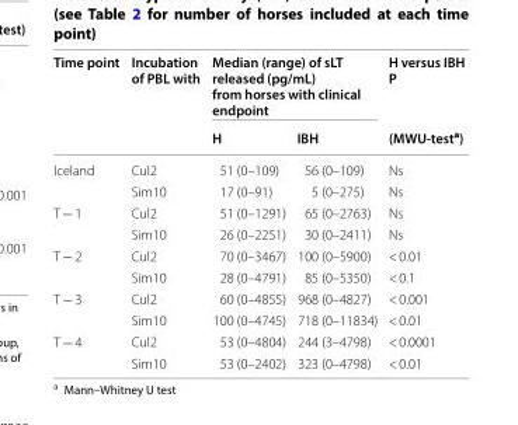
<table><thead><tr><td rowspan="2">Time point</td><td rowspan="2">Incubation of PBL with</td><td colspan="2">Median (range) of sLT released (pg/mL) from horses with clinical endpoint</td><td rowspan="2">H versus IBH P (MWU‑test<sup>a</sup>)</td></tr><tr><td>H</td><td>IBH</td></tr></thead><tbody><tr><td rowspan="2">Iceland</td><td>Cul2</td><td>51 (0–109)</td><td>56 (0–109)</td><td>Ns</td></tr><tr><td>Sim10</td><td>17 (0–91)</td><td>5 (0–275)</td><td>Ns</td></tr><tr><td rowspan="2">T − 1</td><td>Cul2</td><td>51 (0–1291)</td><td>65 (0–2763)</td><td>Ns</td></tr><tr><td>Sim10</td><td>26 (0–2251)</td><td>30 (0–2411)</td><td>Ns</td></tr><tr><td rowspan="2">T − 2</td><td>Cul2</td><td>70 (0–3467)</td><td>100 (0–5900)</td><td>&lt; 0.01</td></tr><tr><td>Sim10</td><td>28 (0–4791)</td><td>85 (0–5350)</td><td>&lt; 0.1</td></tr><tr><td rowspan="2">T − 3</td><td>Cul2</td><td>60 (0–4855)</td><td>968 (0–4827)</td><td>&lt; 0.001</td></tr><tr><td>Sim10</td><td>100 (0–4745)</td><td>718 (0–11834)</td><td>&lt; 0.01</td></tr><tr><td rowspan="2">T − 4</td><td>Cul2</td><td>53 (0–4804)</td><td>244 (3–4798)</td><td>&lt; 0.0001</td></tr><tr><td>Sim10</td><td>53 (0–2402)</td><td>323 (0–4798)</td><td>&lt; 0.01</td></tr></tbody></table>